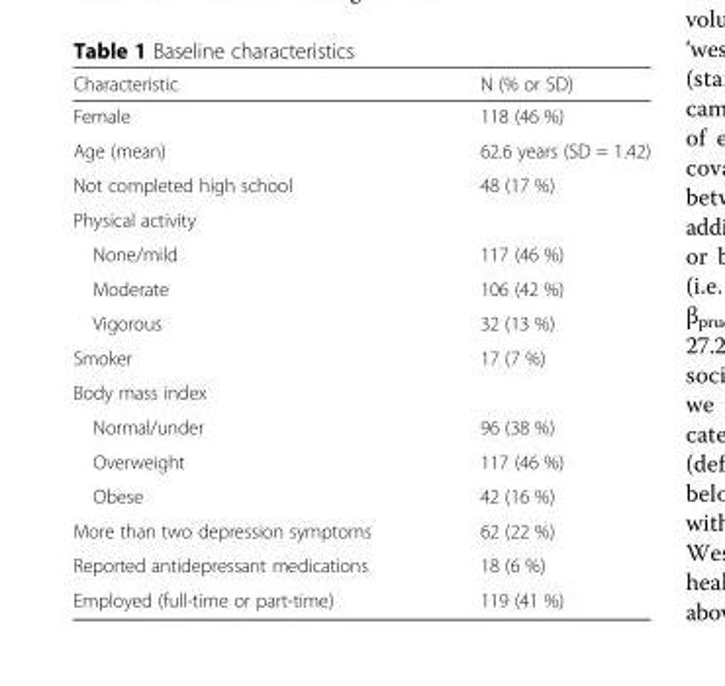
<table><thead><tr><td>Characteristic</td><td>N (% or SD)</td></tr></thead><tbody><tr><td>Female</td><td>118 (46 %)</td></tr><tr><td>Age (mean)</td><td>62.6 years (SD = 1.42)</td></tr><tr><td>Not completed high school</td><td>48 (17 %)</td></tr><tr><td colspan="2">Physical activity</td></tr><tr><td>None/mild</td><td>117 (46 %)</td></tr><tr><td>Moderate</td><td>106 (42 %)</td></tr><tr><td>Vigorous</td><td>32 (13 %)</td></tr><tr><td>Smoker</td><td>17 (7 %)</td></tr><tr><td colspan="2">Body mass index</td></tr><tr><td>Normal/under</td><td>96 (38 %)</td></tr><tr><td>Overweight</td><td>117 (46 %)</td></tr><tr><td>Obese</td><td>42 (16 %)</td></tr><tr><td>More than two depression symptoms</td><td>62 (22 %)</td></tr><tr><td>Reported antidepressant medications</td><td>18 (6 %)</td></tr><tr><td>Employed (full-time or part-time)</td><td>119 (41 %)</td></tr></tbody></table>